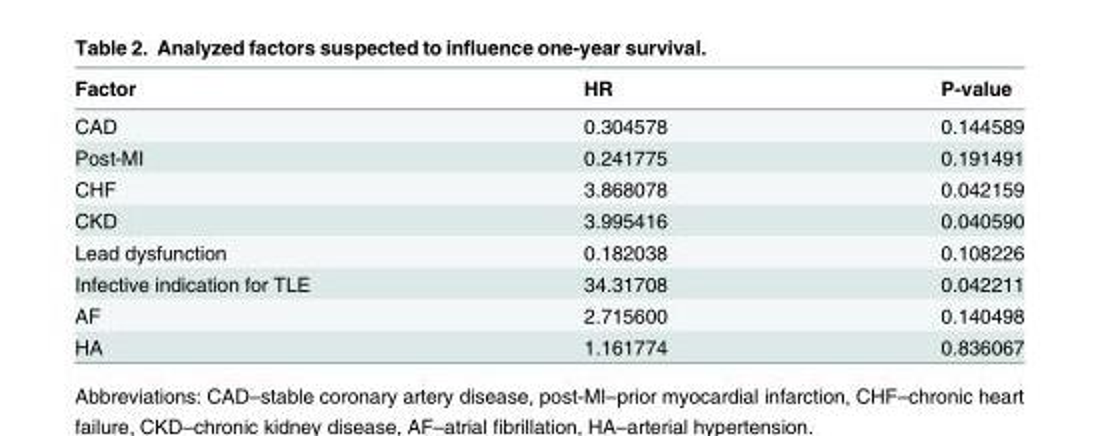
<table><thead><tr><td>Factor</td><td>HR</td><td>P-value</td></tr></thead><tbody><tr><td>CAD</td><td>0.304578</td><td>0.144589</td></tr><tr><td>Post-MI</td><td>0.241775</td><td>0.191491</td></tr><tr><td>CHF</td><td>3.868078</td><td>0.042159</td></tr><tr><td>CKD</td><td>3.995416</td><td>0.040590</td></tr><tr><td>Lead dysfunction</td><td>0.182038</td><td>0.108226</td></tr><tr><td>Infective indication for TLE</td><td>34.31708</td><td>0.042211</td></tr><tr><td>AF</td><td>2.715600</td><td>0.140498</td></tr><tr><td>HA</td><td>1.161774</td><td>0.836067</td></tr></tbody></table>